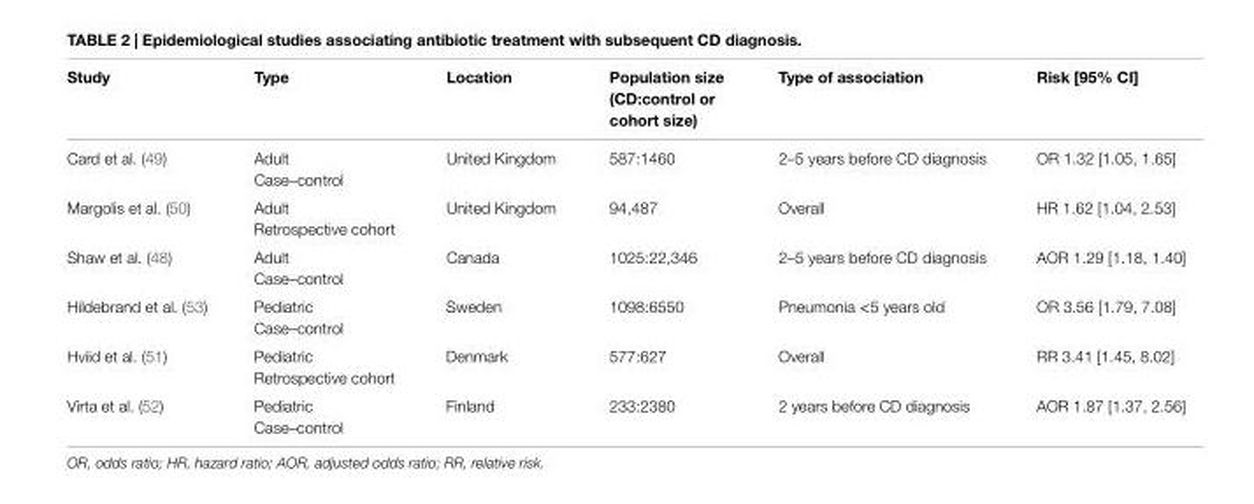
<table><thead><tr><td>Study</td><td>Type</td><td>Location</td><td>Population size (CD:control or cohort size)</td><td>Type of association</td><td>Risk [95% Ci]</td></tr></thead><tbody><tr><td rowspan="2">Card et al. (49)</td><td>Adult</td><td rowspan="2">United Kingdom</td><td rowspan="2">587:1460</td><td rowspan="2">2–5 years before CD diagnosis</td><td rowspan="2">OR 1.32 [1.05, 1.65]</td></tr><tr><td>Case–control</td></tr><tr><td rowspan="2">Margolis et al. (50)</td><td>Adult</td><td rowspan="2">United Kingdom</td><td rowspan="2">94,487</td><td rowspan="2">Overall</td><td rowspan="2">HR 1.62 [1.04, 2.53]</td></tr><tr><td>Retrospective cohort</td></tr><tr><td rowspan="2">Shaw et al. (48)</td><td>Adult</td><td rowspan="2">Canada</td><td rowspan="2">1025:22,346</td><td rowspan="2">2–5 years before CD diagnosis</td><td rowspan="2">AOR 1.29 [1.18, 1.40]</td></tr><tr><td>Case–control</td></tr><tr><td rowspan="2">Hildebrand et al. (53)</td><td>Pediatric</td><td rowspan="2">Sweden</td><td rowspan="2">1098:6550</td><td rowspan="2">Pneumonia &lt;5 years old</td><td rowspan="2">OR 3.56 [1.79, 7.08]</td></tr><tr><td>Case–control</td></tr><tr><td rowspan="2">Hviid et al. (51)</td><td>Pediatric</td><td rowspan="2">Denmark</td><td rowspan="2">577:627</td><td rowspan="2">Overall</td><td rowspan="2">RR 3.41 [1.45, 8.02]</td></tr><tr><td>Retrospective cohort</td></tr><tr><td rowspan="2">Virta et al. (52)</td><td>Pediatric</td><td rowspan="2">Finland</td><td rowspan="2">233:2380</td><td rowspan="2">2 years before CD diagnosis</td><td rowspan="2">AOR 1.87 [1.37, 2.56]</td></tr><tr><td>Case–control</td></tr></tbody></table>